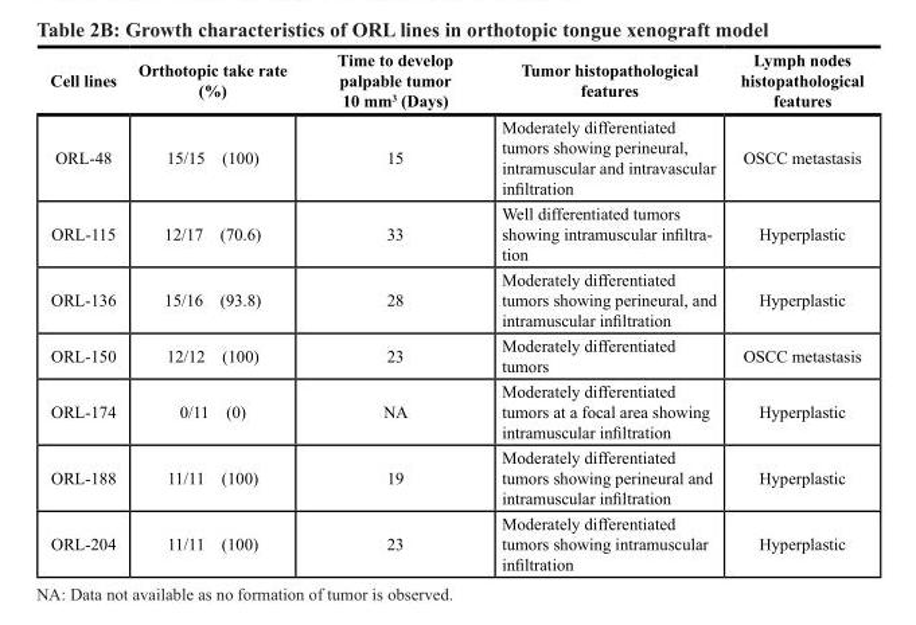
<table><thead><tr><td>Cell lines</td><td>Orthotopic take rate (%)</td><td>Time to develop palpable tumor 10 mm<sup>3</sup> (Days)</td><td>Tumor histopathological features</td><td>Lymph nodes histopathological features</td></tr></thead><tbody><tr><td>ORL-48</td><td>15/15 (100)</td><td>15</td><td>Moderately differentiated tumors showing perineural, intramuscular and intravascular infiltration</td><td>OSCC metastasis</td></tr><tr><td>ORL-115</td><td>12/17 (70.6)</td><td>33</td><td>Well differentiated tumors showing intramuscular infiltra- tion</td><td>Hyperplastic</td></tr><tr><td>ORL-136</td><td>15/16 (93.8)</td><td>28</td><td>Moderately differentiated tumors showing perineural, and intramuscular infiltration</td><td>Hyperplastic</td></tr><tr><td>ORL-150</td><td>12/12 (100)</td><td>23</td><td>Moderately differentiated tumors</td><td>OSCC metastasis</td></tr><tr><td>ORL-174</td><td>0/11 (0)</td><td>NA</td><td>Moderately differentiated tumors at a focal area showing intramuscular infiltration</td><td>Hyperplastic</td></tr><tr><td>ORL-188</td><td>11/11 (100)</td><td>19</td><td>Moderately differentiated tumors showing perineural and intramuscular infiltration</td><td>Hyperplastic</td></tr><tr><td>ORL-204</td><td>11/11 (100)</td><td>23</td><td>Moderately differentiated tumors showing intramuscular infiltration</td><td>Hyperplastic</td></tr></tbody></table>